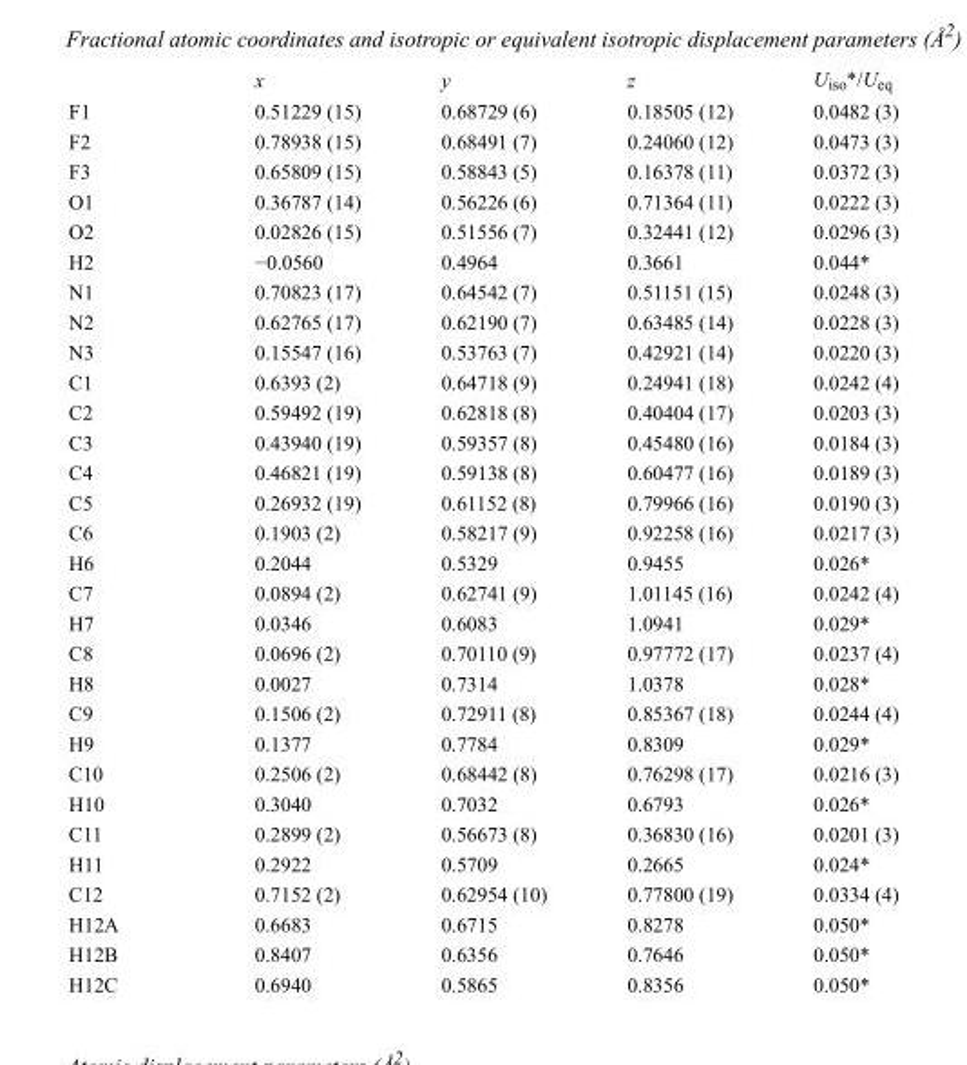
<table><thead><tr><td></td><td>x</td><td>y</td><td>z</td><td>U<sub>iso</sub>*/U<sub>eq</sub></td></tr></thead><tbody><tr><td>F1</td><td>0.51229 (15)</td><td>0.68729 (6)</td><td>0.18505 (12)</td><td>0.0482 (3)</td></tr><tr><td>F2</td><td>0.78938 (15)</td><td>0.68491 (7)</td><td>0.24060 (12)</td><td>0.0473 (3)</td></tr><tr><td>F3</td><td>0.65809 (15)</td><td>0.58843 (5)</td><td>0.16378 (11)</td><td>0.0372 (3)</td></tr><tr><td>O1</td><td>0.36787 (14)</td><td>0.56226 (6)</td><td>0.71364 (11)</td><td>0.0222 (3)</td></tr><tr><td>O2</td><td>0.02826 (15)</td><td>0.51556 (7)</td><td>0.32441 (12)</td><td>0.0296 (3)</td></tr><tr><td>H2</td><td>−0.0560</td><td>0.4964</td><td>0.3661</td><td>0.044*</td></tr><tr><td>N1</td><td>0.70823 (17)</td><td>0.64542 (7)</td><td>0.51151 (15)</td><td>0.0248 (3)</td></tr><tr><td>N2</td><td>0.62765 (17)</td><td>0.62190 (7)</td><td>0.63485 (14)</td><td>0.0228 (3)</td></tr><tr><td>N3</td><td>0.15547 (16)</td><td>0.53763 (7)</td><td>0.42921 (14)</td><td>0.0220 (3)</td></tr><tr><td>C1</td><td>0.6393 (2)</td><td>0.64718 (9)</td><td>0.24941 (18)</td><td>0.0242 (4)</td></tr><tr><td>C2</td><td>0.59492 (19)</td><td>0.62818 (8)</td><td>0.40404 (17)</td><td>0.0203 (3)</td></tr><tr><td>C3</td><td>0.43940 (19)</td><td>0.59357 (8)</td><td>0.45480 (16)</td><td>0.0184 (3)</td></tr><tr><td>C4</td><td>0.46821 (19)</td><td>0.59138 (8)</td><td>0.60477 (16)</td><td>0.0189 (3)</td></tr><tr><td>C5</td><td>0.26932 (19)</td><td>0.61152 (8)</td><td>0.79966 (16)</td><td>0.0190 (3)</td></tr><tr><td>C6</td><td>0.1903 (2)</td><td>0.58217 (9)</td><td>0.92258 (16)</td><td>0.0217 (3)</td></tr><tr><td>H6</td><td>0.2044</td><td>0.5329</td><td>0.9455</td><td>0.026*</td></tr><tr><td>C7</td><td>0.0894 (2)</td><td>0.62741 (9)</td><td>1.01145 (16)</td><td>0.0242 (4)</td></tr><tr><td>H7</td><td>0.0346</td><td>0.6083</td><td>1.0941</td><td>0.029*</td></tr><tr><td>C8</td><td>0.0696 (2)</td><td>0.70110 (9)</td><td>0.97772 (17)</td><td>0.0237 (4)</td></tr><tr><td>H8</td><td>0.0027</td><td>0.7314</td><td>1.0378</td><td>0.028*</td></tr><tr><td>C9</td><td>0.1506 (2)</td><td>0.72911 (8)</td><td>0.85367 (18)</td><td>0.0244 (4)</td></tr><tr><td>H9</td><td>0.1377</td><td>0.7784</td><td>0.8309</td><td>0.029*</td></tr><tr><td>C10</td><td>0.2506 (2)</td><td>0.68442 (8)</td><td>0.76298 (17)</td><td>0.0216 (3)</td></tr><tr><td>H10</td><td>0.3040</td><td>0.7032</td><td>0.6793</td><td>0.026*</td></tr><tr><td>C11</td><td>0.2899 (2)</td><td>0.56673 (8)</td><td>0.36830 (16)</td><td>0.0201 (3)</td></tr><tr><td>H11</td><td>0.2922</td><td>0.5709</td><td>0.2665</td><td>0.024*</td></tr><tr><td>C12</td><td>0.7152 (2)</td><td>0.62954 (10)</td><td>0.77800 (19)</td><td>0.0334 (4)</td></tr><tr><td>H12A</td><td>0.6683</td><td>0.6715</td><td>0.8278</td><td>0.050*</td></tr><tr><td>H12B</td><td>0.8407</td><td>0.6356</td><td>0.7646</td><td>0.050*</td></tr><tr><td>H12C</td><td>0.6940</td><td>0.5865</td><td>0.8356</td><td>0.050*</td></tr></tbody></table>